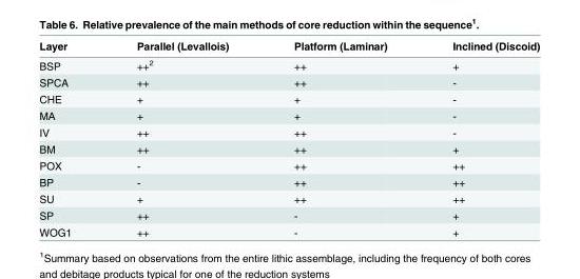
<table><thead><tr><td>Layer</td><td>Parallel (Levallois)</td><td>Platform (Laminar)</td><td>Inclined (Discoid)</td></tr></thead><tbody><tr><td>BSP</td><td>++<sup>2</sup></td><td>++</td><td>+</td></tr><tr><td>SPCA</td><td>++</td><td>++</td><td>-</td></tr><tr><td>CHE</td><td>+</td><td>+</td><td>-</td></tr><tr><td>MA</td><td>+</td><td>+</td><td>-</td></tr><tr><td>IV</td><td>++</td><td>++</td><td>-</td></tr><tr><td>BM</td><td>++</td><td>++</td><td>+</td></tr><tr><td>POX</td><td>-</td><td>++</td><td>++</td></tr><tr><td>BP</td><td>-</td><td>++</td><td>++</td></tr><tr><td>SU</td><td>+</td><td>++</td><td>++</td></tr><tr><td>SP</td><td>++</td><td>-</td><td>+</td></tr><tr><td>WOG1</td><td>++</td><td>-</td><td>+</td></tr></tbody></table>